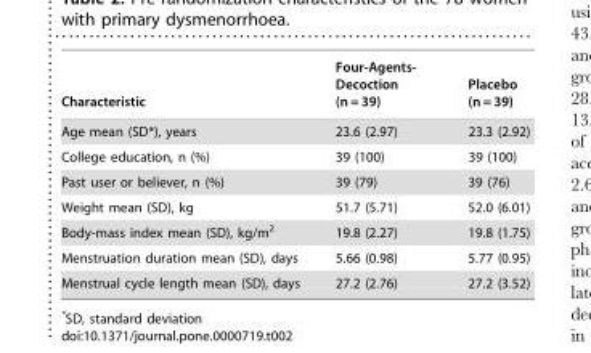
<table><thead><tr><td>Characteristic</td><td>Four-Agents- Decoction (n = 39)</td><td>Placebo (n = 39)</td></tr></thead><tbody><tr><td>Age mean (SD*), years</td><td>23.6 (2.97)</td><td>23.3 (2.92)</td></tr><tr><td>College education, n (%)</td><td>39 (100)</td><td>39 (100)</td></tr><tr><td>Past user or believer, n (%)</td><td>39 (79)</td><td>39 (76)</td></tr><tr><td>Weight mean (SD), kg</td><td>51.7 (5.71)</td><td>52.0 (6.01)</td></tr><tr><td>Body-mass index mean (SD), kg/m<sup>2</sup></td><td>19.8 (2.27)</td><td>19.8 (1.75)</td></tr><tr><td>Menstruation duration mean (SD), days</td><td>5.66 (0.98)</td><td>5.77 (0.95)</td></tr><tr><td>Menstrual cycle length mean (SD), days</td><td>27.2 (2.76)</td><td>27.2 (3.52)</td></tr></tbody></table>